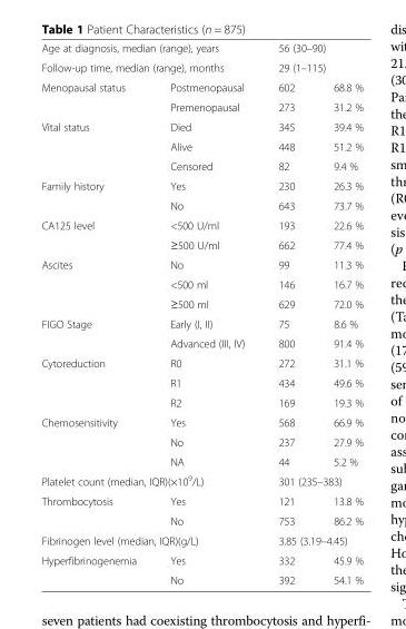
<table><tbody><tr><td colspan="2">Age at diagnosis, median (range), years</td><td colspan="2">56 (30–90)</td></tr><tr><td colspan="2">Follow-up time, median (range), months</td><td colspan="2">29 (1–115)</td></tr><tr><td rowspan="2">Menopausal status</td><td>Postmenopausal</td><td>602</td><td>68.8 %</td></tr><tr><td>Premenopausal</td><td>273</td><td>31.2 %</td></tr><tr><td rowspan="3">Vital status</td><td>Died</td><td>345</td><td>39.4 %</td></tr><tr><td>Alive</td><td>448</td><td>51.2 %</td></tr><tr><td>Censored</td><td>82</td><td>9.4 %</td></tr><tr><td rowspan="2">Family history</td><td>Yes</td><td>230</td><td>26.3 %</td></tr><tr><td>No</td><td>643</td><td>73.7 %</td></tr><tr><td rowspan="2">CA125 level</td><td>&lt;500 U/ml</td><td>193</td><td>22.6 %</td></tr><tr><td>≥500 U/ml</td><td>662</td><td>77.4 %</td></tr><tr><td rowspan="3">Ascites</td><td>No</td><td>99</td><td>11.3 %</td></tr><tr><td>&lt;500 ml</td><td>146</td><td>16.7 %</td></tr><tr><td>≥500 ml</td><td>629</td><td>72.0 %</td></tr><tr><td rowspan="2">FIGO Stage</td><td>Early (I, II)</td><td>75</td><td>8.6 %</td></tr><tr><td>Advanced (III, IV)</td><td>800</td><td>91.4 %</td></tr><tr><td rowspan="3">Cytoreduction</td><td>R0</td><td>272</td><td>31.1 %</td></tr><tr><td>R1</td><td>434</td><td>49.6 %</td></tr><tr><td>R2</td><td>169</td><td>19.3 %</td></tr><tr><td rowspan="3">Chemosensitivity</td><td>Yes</td><td>568</td><td>66.9 %</td></tr><tr><td>No</td><td>237</td><td>27.9 %</td></tr><tr><td>NA</td><td>44</td><td>5.2 %</td></tr><tr><td colspan="2">Platelet count (median, IQR)(×10<sup>9</sup>/L)</td><td colspan="2">301 (235–383)</td></tr><tr><td rowspan="2">Thrombocytosis</td><td>Yes</td><td>121</td><td>13.8 %</td></tr><tr><td>No</td><td>753</td><td>86.2 %</td></tr><tr><td colspan="2">Fibrinogen level (median, IQR)(g/L)</td><td colspan="2">3.85 (3.19–4.45)</td></tr><tr><td rowspan="2">Hyperfibrinogenemia</td><td>Yes</td><td>332</td><td>45.9 %</td></tr><tr><td>No</td><td>392</td><td>54.1 %</td></tr></tbody></table>